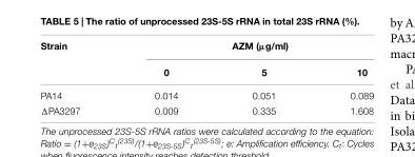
<table><thead><tr><td rowspan="2">Strain</td><td colspan="3">AZM (µg/ml)</td></tr><tr><td>0</td><td>5</td><td>10</td></tr></thead><tbody><tr><td>PA14</td><td>0.014</td><td>0.051</td><td>0.089</td></tr><tr><td>ΔPA3297</td><td>0.009</td><td>0.335</td><td>1.608</td></tr></tbody></table>